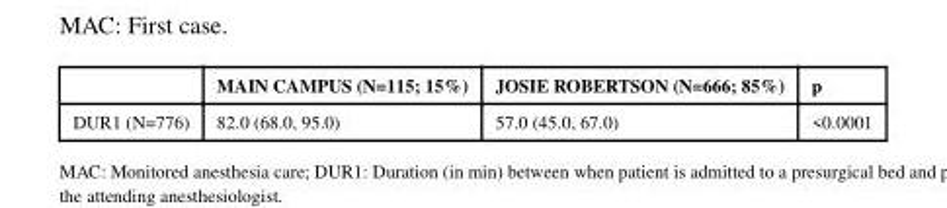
<table><thead><tr><td></td><td>MAIN CAMPUS (N=115; 15%)</td><td>JOSIE ROBERTSON (N=666; 85%)</td><td>p</td></tr></thead><tbody><tr><td>DUR1 (N=776)</td><td>82.0 (68.0, 95.0)</td><td>57.0 (45.0, 67.0)</td><td>&lt;0.0001</td></tr></tbody></table>